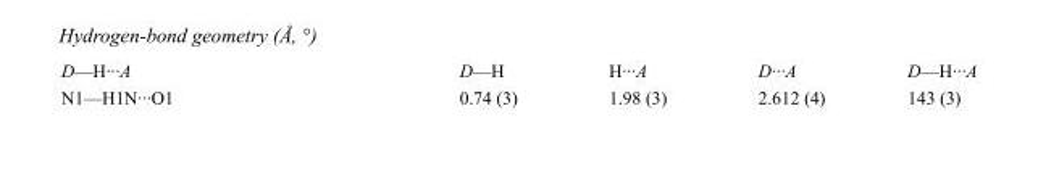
<table><tbody><tr><td>D—H···A</td><td>D—H</td><td>H···A</td><td>D···A</td><td>D—H···A</td></tr><tr><td>N1—H1N···O1</td><td>0.74 (3)</td><td>1.98 (3)</td><td>2.612 (4)</td><td>143 (3)</td></tr></tbody></table>